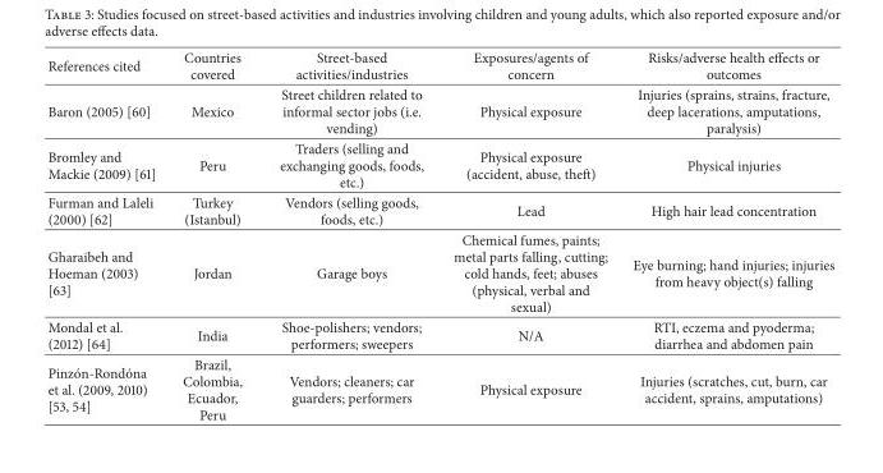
<table><thead><tr><td>References cited</td><td>Countries covered</td><td>Street-based activities/industries</td><td>Exposures/agents of concern</td><td>Risks/adverse health effects or outcomes</td></tr></thead><tbody><tr><td>Baron (2005) [60]</td><td>Mexico</td><td>Street children related to informal sector jobs (i.e. vending)</td><td>Physical exposure</td><td>Injuries (sprains, strains, fracture, deep lacerations, amputations, paralysis)</td></tr><tr><td>Bromley and Mackie (2009) [61]</td><td>Peru</td><td>Traders (selling and exchanging goods, foods, etc.)</td><td>Physical exposure (accident, abuse, theft)</td><td>Physical injuries</td></tr><tr><td>Furman and Laleli (2000) [62]</td><td>Turkey (Istanbul)</td><td>Vendors (selling goods, foods, etc.)</td><td>Lead</td><td>High hair lead concentration</td></tr><tr><td>Gharaibeh and Hoeman (2003) [63]</td><td>Jordan</td><td>Garage boys</td><td>Chemical fumes, paints; metal parts falling, cutting; cold hands, feet; abuses (physical, verbal and sexual)</td><td>Eye burning; hand injuries; injuries from heavy object(s) falling</td></tr><tr><td>Mondal et al. (2012) [64]</td><td>India</td><td>Shoe-polishers; vendors; performers; sweepers</td><td>N/A</td><td>RTI, eczema and pyoderma; diarrhea and abdomen pain</td></tr><tr><td>Pinz´on-Rond´ona et al. (2009, 2010) [53, 54]</td><td>Brazil, Colombia, Ecuador, Peru</td><td>Vendors; cleaners; car guarders; performers</td><td>Physical exposure</td><td>Injuries (scratches, cut, burn, car accident, sprains, amputations)</td></tr></tbody></table>